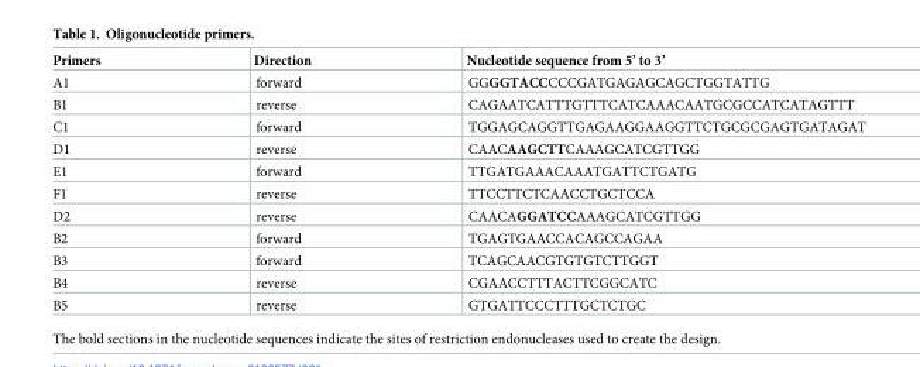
<table><thead><tr><td>Primers</td><td>Direction</td><td>Nucleotide sequence from 5’ to 3’</td></tr></thead><tbody><tr><td>A1</td><td>forward</td><td>GGGGTACCCCCGATGAGAGCAGCTGGTATTG</td></tr><tr><td>B1</td><td>reverse</td><td>CAGAATCATTTGTTTCATCAAACAATGCGCCATCATAGTTT</td></tr><tr><td>C1</td><td>forward</td><td>TGGAGCAGGTTGAGAAGGAAGGTTCTGCGCGAGTGATAGAT</td></tr><tr><td>D1</td><td>reverse</td><td>CAACAAGCTTCAAAGCATCGTTGG</td></tr><tr><td>E1</td><td>forward</td><td>TTGATGAAACAAATGATTCTGATG</td></tr><tr><td>F1</td><td>reverse</td><td>TTCCTTCTCAACCTGCTCCA</td></tr><tr><td>D2</td><td>reverse</td><td>CAACAGGATCCAAAGCATCGTTGG</td></tr><tr><td>B2</td><td>forward</td><td>TGAGTGAACCACAGCCAGAA</td></tr><tr><td>B3</td><td>forward</td><td>TCAGCAACGTGTGTCTTGGT</td></tr><tr><td>B4</td><td>reverse</td><td>CGAACCTTTACTTCGGCATC</td></tr><tr><td>B5</td><td>reverse</td><td>GTGATTCCCTTTGCTCTGC</td></tr></tbody></table>